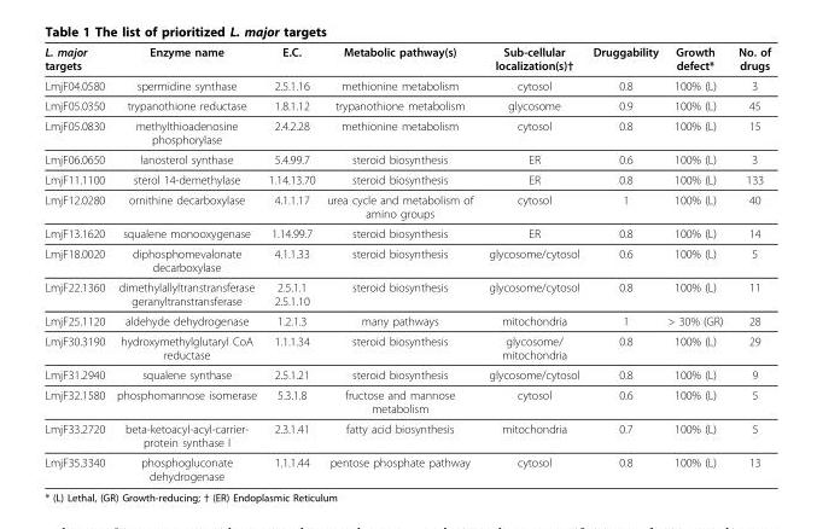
<table><thead><tr><td>L. major targets</td><td>Enzyme name</td><td>E.C.</td><td>Metabolic pathway(s)</td><td>Sub-cellular localization(s)†</td><td>Druggability</td><td>Growth defect*</td><td>No. of drugs</td></tr></thead><tbody><tr><td>LmjF04.0580</td><td>spermidine synthase</td><td>2.5.1.16</td><td>methionine metabolism</td><td>cytosol</td><td>0.8</td><td>100% (L)</td><td>3</td></tr><tr><td>LmjF05.0350</td><td>trypanothione reductase</td><td>1.8.1.12</td><td>trypanothione metabolism</td><td>glycosome</td><td>0.9</td><td>100% (L)</td><td>45</td></tr><tr><td>LmjF05.0830</td><td>methylthioadenosine phosphorylase</td><td>2.4.2.28</td><td>methionine metabolism</td><td>cytosol</td><td>0.8</td><td>100% (L)</td><td>15</td></tr><tr><td>LmjF06.0650</td><td>lanosterol synthase</td><td>5.4.99.7</td><td>steroid biosynthesis</td><td>ER</td><td>0.6</td><td>100% (L)</td><td>3</td></tr><tr><td>LmjF11.1100</td><td>sterol 14-demethylase</td><td>1.14.13.70</td><td>steroid biosynthesis</td><td>ER</td><td>0.8</td><td>100% (L)</td><td>133</td></tr><tr><td>LmjF12.0280</td><td>ornithine decarboxylase</td><td>4.1.1.17</td><td>urea cycle and metabolism of amino groups</td><td>cytosol</td><td>1</td><td>100% (L)</td><td>40</td></tr><tr><td>LmjF13.1620</td><td>squalene monooxygenase</td><td>1.14.99.7</td><td>steroid biosynthesis</td><td>ER</td><td>0.8</td><td>100% (L)</td><td>14</td></tr><tr><td>LmjF18.0020</td><td>diphosphomevalonate decarboxylase</td><td>4.1.1.33</td><td>steroid biosynthesis</td><td>glycosome/cytosol</td><td>0.6</td><td>100% (L)</td><td>5</td></tr><tr><td>LmjF22.1360</td><td>dimethylallyltranstransferase geranyltranstransferase</td><td>2.5.1.1 2.5.1.10</td><td>steroid biosynthesis</td><td>glycosome/cytosol</td><td>0.8</td><td>100% (L)</td><td>11</td></tr><tr><td>LmjF25.1120</td><td>aldehyde dehydrogenase</td><td>1.2.1.3</td><td>many pathways</td><td>mitochondria</td><td>1</td><td>&gt; 30% (GR)</td><td>28</td></tr><tr><td>LmjF30.3190</td><td>hydroxymethylglutaryl CoA reductase</td><td>1.1.1.34</td><td>steroid biosynthesis</td><td>glycosome/ mitochondria</td><td>0.8</td><td>100% (L)</td><td>29</td></tr><tr><td>LmjF31.2940</td><td>squalene synthase</td><td>2.5.1.21</td><td>steroid biosynthesis</td><td>glycosome/cytosol</td><td>0.8</td><td>100% (L)</td><td>9</td></tr><tr><td>LmjF32.1580</td><td>phosphomannose isomerase</td><td>5.3.1.8</td><td>fructose and mannose metabolism</td><td>cytosol</td><td>0.6</td><td>100% (L)</td><td>5</td></tr><tr><td>LmjF33.2720</td><td>beta-ketoacyl-acyl-carrier- protein synthase I</td><td>2.3.1.41</td><td>fatty acid biosynthesis</td><td>mitochondria</td><td>0.7</td><td>100% (L)</td><td>5</td></tr><tr><td>LmjF35.3340</td><td>phosphogluconate dehydrogenase</td><td>1.1.1.44</td><td>pentose phosphate pathway</td><td>cytosol</td><td>0.8</td><td>100% (L)</td><td>13</td></tr></tbody></table>